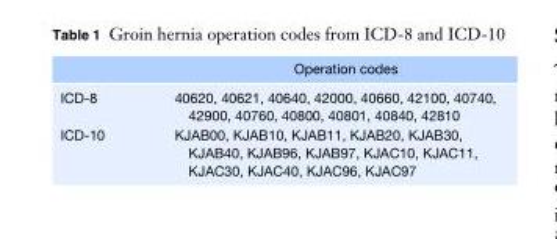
<table><thead><tr><td></td><td>Operation codes</td></tr></thead><tbody><tr><td>ICD-8</td><td>40620, 40621, 40640, 42000, 40660, 42100, 40740, 42900, 40760, 40800, 40801, 40840, 42810</td></tr><tr><td>ICD-10</td><td>KJAB00, KJAB10, KJAB11, KJAB20, KJAB30, KJAB40, KJAB96, KJAB97, KJAC10, KJAC11, KJAC30, KJAC40, KJAC96, KJAC97</td></tr></tbody></table>